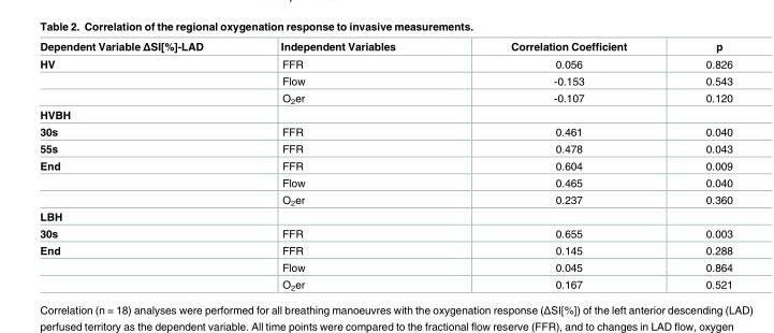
<table><thead><tr><td>Dependent Variable ΔSI[%]-LAD</td><td>Independent Variables</td><td>Correlation Coefficient</td><td>p</td></tr></thead><tbody><tr><td rowspan="3">HV</td><td>FFR</td><td>0.056</td><td>0.826</td></tr><tr><td>Flow</td><td>-0.153</td><td>0.543</td></tr><tr><td>O<sub>2</sub>er</td><td>-0.107</td><td>0.120</td></tr><tr><td colspan="4">HVBH</td></tr><tr><td>30s</td><td>FFR</td><td>0.461</td><td>0.040</td></tr><tr><td>55s</td><td>FFR</td><td>0.478</td><td>0.043</td></tr><tr><td rowspan="3">End</td><td>FFR</td><td>0.604</td><td>0.009</td></tr><tr><td>Flow</td><td>0.465</td><td>0.040</td></tr><tr><td>O<sub>2</sub>er</td><td>0.237</td><td>0.360</td></tr><tr><td colspan="4">LBH</td></tr><tr><td>30s</td><td>FFR</td><td>0.655</td><td>0.003</td></tr><tr><td rowspan="3">End</td><td>FFR</td><td>0.145</td><td>0.288</td></tr><tr><td>Flow</td><td>0.045</td><td>0.864</td></tr><tr><td>O<sub>2</sub>er</td><td>0.167</td><td>0.521</td></tr></tbody></table>